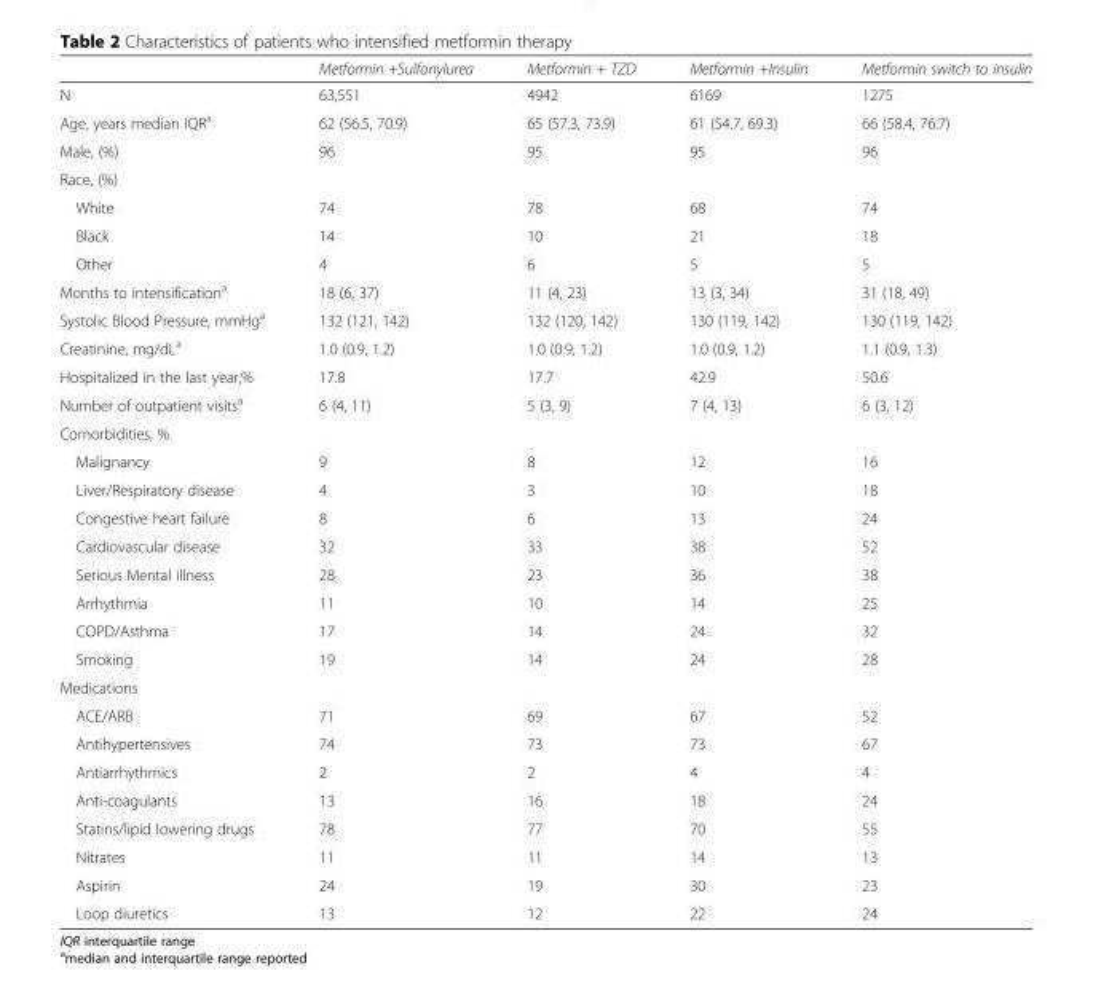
<table><thead><tr><td></td><td>Metformin +Sulfonylurea</td><td>Metformin + TZD</td><td>Metformin +Insulin</td><td>Metformin switch to insulin</td></tr></thead><tbody><tr><td>N</td><td>63,551</td><td>4942</td><td>6169</td><td>1275</td></tr><tr><td>Age, years median IQR<sup>a</sup></td><td>62 (56.5, 70.9)</td><td>65 (57.3, 73.9)</td><td>61 (54.7, 69.3)</td><td>66 (58.4, 76.7)</td></tr><tr><td>Male, (%)</td><td>96</td><td>95</td><td>95</td><td>96</td></tr><tr><td colspan="5">Race, (%)</td></tr><tr><td>White</td><td>74</td><td>78</td><td>68</td><td>74</td></tr><tr><td>Black</td><td>14</td><td>10</td><td>21</td><td>18</td></tr><tr><td>Other</td><td>4</td><td>6</td><td>5</td><td>5</td></tr><tr><td>Months to intensification<sup>a</sup></td><td>18 (6, 37)</td><td>11 (4, 23)</td><td>13 (3, 34)</td><td>31 (18, 49)</td></tr><tr><td>Systolic Blood Pressure, mmHg<sup>a</sup></td><td>132 (121, 142)</td><td>132 (120, 142)</td><td>130 (119, 142)</td><td>130 (119, 142)</td></tr><tr><td>Creatinine, mg/dL<sup>a</sup></td><td>1.0 (0.9, 1.2)</td><td>1.0 (0.9, 1.2)</td><td>1.0 (0.9, 1.2)</td><td>1.1 (0.9, 1.3)</td></tr><tr><td>Hospitalized in the last year,%</td><td>17.8</td><td>17.7</td><td>42.9</td><td>50.6</td></tr><tr><td>Number of outpatient visits<sup>a</sup></td><td>6 (4, 11)</td><td>5 (3, 9)</td><td>7 (4, 13)</td><td>6 (3, 12)</td></tr><tr><td colspan="5">Comorbidities, %</td></tr><tr><td>Malignancy</td><td>9</td><td>8</td><td>12</td><td>16</td></tr><tr><td>Liver/Respiratory disease</td><td>4</td><td>3</td><td>10</td><td>18</td></tr><tr><td>Congestive heart failure</td><td>8</td><td>6</td><td>13</td><td>24</td></tr><tr><td>Cardiovascular disease</td><td>32</td><td>33</td><td>38</td><td>52</td></tr><tr><td>Serious Mental illness</td><td>28</td><td>23</td><td>36</td><td>38</td></tr><tr><td>Arrhythmia</td><td>11</td><td>10</td><td>14</td><td>25</td></tr><tr><td>COPD/Asthma</td><td>17</td><td>14</td><td>24</td><td>32</td></tr><tr><td>Smoking</td><td>19</td><td>14</td><td>24</td><td>28</td></tr><tr><td colspan="5">Medications</td></tr><tr><td>ACE/ARB</td><td>71</td><td>69</td><td>67</td><td>52</td></tr><tr><td>Antihypertensives</td><td>74</td><td>73</td><td>73</td><td>67</td></tr><tr><td>Antiarrhythmics</td><td>2</td><td>2</td><td>4</td><td>4</td></tr><tr><td>Anti-coagulants</td><td>13</td><td>16</td><td>18</td><td>24</td></tr><tr><td>Statins/lipid lowering drugs</td><td>78</td><td>77</td><td>70</td><td>55</td></tr><tr><td>Nitrates</td><td>11</td><td>11</td><td>14</td><td>13</td></tr><tr><td>Aspirin</td><td>24</td><td>19</td><td>30</td><td>23</td></tr><tr><td>Loop diuretics</td><td>13</td><td>12</td><td>22</td><td>24</td></tr></tbody></table>